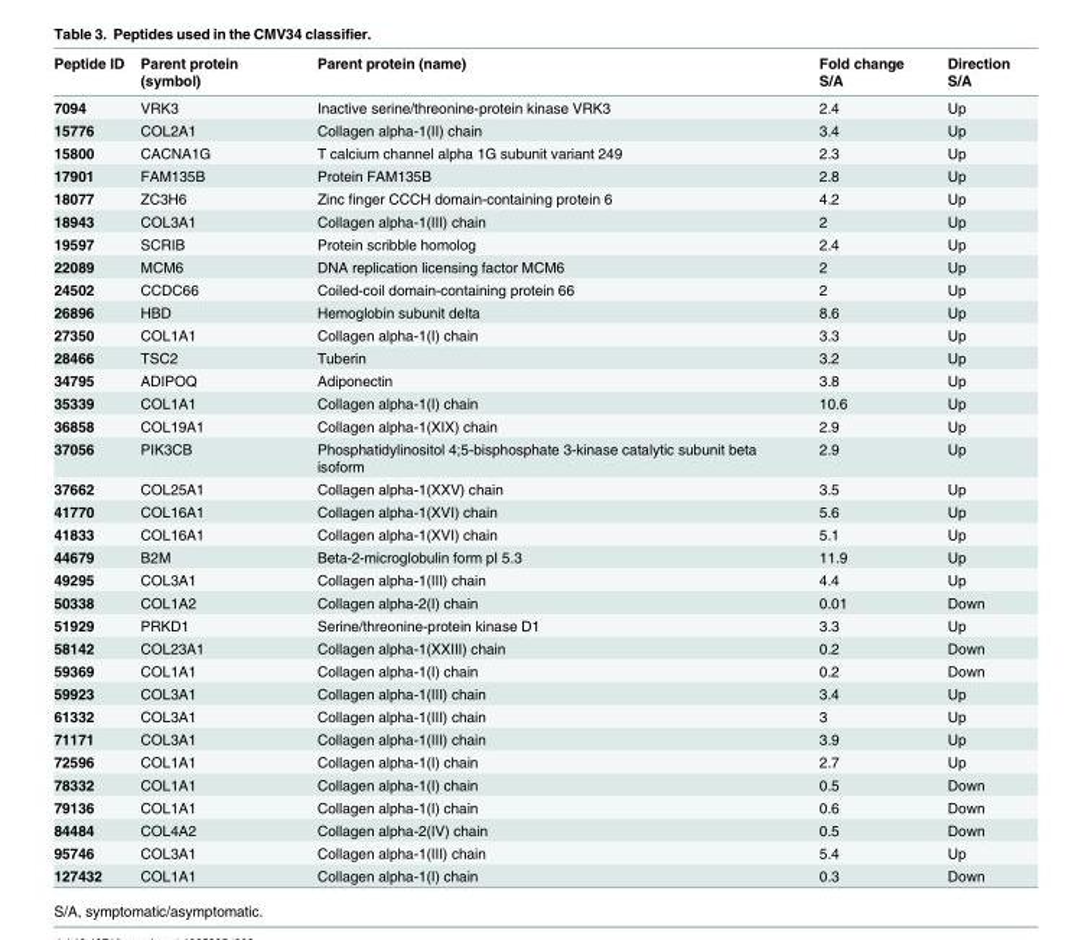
<table><thead><tr><td>Peptide ID</td><td>Parent protein (symbol)</td><td>Parent protein (name)</td><td>Fold change S/A</td><td>Direction S/A</td></tr></thead><tbody><tr><td>7094</td><td>VRK3</td><td>Inactive serine/threonine-protein kinase VRK3</td><td>2.4</td><td>Up</td></tr><tr><td>15776</td><td>COL2A1</td><td>Collagen alpha-1(II) chain</td><td>3.4</td><td>Up</td></tr><tr><td>15800</td><td>CACNA1G</td><td>T calcium channel alpha 1G subunit variant 249</td><td>2.3</td><td>Up</td></tr><tr><td>17901</td><td>FAM135B</td><td>Protein FAM135B</td><td>2.8</td><td>Up</td></tr><tr><td>18077</td><td>ZC3H6</td><td>Zinc finger CCCH domain-containing protein 6</td><td>4.2</td><td>Up</td></tr><tr><td>18943</td><td>COL3A1</td><td>Collagen alpha-1(III) chain</td><td>2</td><td>Up</td></tr><tr><td>19597</td><td>SCRIB</td><td>Protein scribble homolog</td><td>2.4</td><td>Up</td></tr><tr><td>22089</td><td>MCM6</td><td>DNA replication licensing factor MCM6</td><td>2</td><td>Up</td></tr><tr><td>24502</td><td>CCDC66</td><td>Coiled-coil domain-containing protein 66</td><td>2</td><td>Up</td></tr><tr><td>26896</td><td>HBD</td><td>Hemoglobin subunit delta</td><td>8.6</td><td>Up</td></tr><tr><td>27350</td><td>COL1A1</td><td>Collagen alpha-1(I) chain</td><td>3.3</td><td>Up</td></tr><tr><td>28466</td><td>TSC2</td><td>Tuberin</td><td>3.2</td><td>Up</td></tr><tr><td>34795</td><td>ADIPOQ</td><td>Adiponectin</td><td>3.8</td><td>Up</td></tr><tr><td>35339</td><td>COL1A1</td><td>Collagen alpha-1(I) chain</td><td>10.6</td><td>Up</td></tr><tr><td>36858</td><td>COL19A1</td><td>Collagen alpha-1(XIX) chain</td><td>2.9</td><td>Up</td></tr><tr><td>37056</td><td>PIK3CB</td><td>Phosphatidylinositol 4;5-bisphosphate 3-kinase catalytic subunit beta isoform</td><td>2.9</td><td>Up</td></tr><tr><td>37662</td><td>COL25A1</td><td>Collagen alpha-1(XXV) chain</td><td>3.5</td><td>Up</td></tr><tr><td>41770</td><td>COL16A1</td><td>Collagen alpha-1(XVI) chain</td><td>5.6</td><td>Up</td></tr><tr><td>41833</td><td>COL16A1</td><td>Collagen alpha-1(XVI) chain</td><td>5.1</td><td>Up</td></tr><tr><td>44679</td><td>B2M</td><td>Beta-2-microglobulin form pI 5.3</td><td>11.9</td><td>Up</td></tr><tr><td>49295</td><td>COL3A1</td><td>Collagen alpha-1(III) chain</td><td>4.4</td><td>Up</td></tr><tr><td>50338</td><td>COL1A2</td><td>Collagen alpha-2(I) chain</td><td>0.01</td><td>Down</td></tr><tr><td>51929</td><td>PRKD1</td><td>Serine/threonine-protein kinase D1</td><td>3.3</td><td>Up</td></tr><tr><td>58142</td><td>COL23A1</td><td>Collagen alpha-1(XXIII) chain</td><td>0.2</td><td>Down</td></tr><tr><td>59369</td><td>COL1A1</td><td>Collagen alpha-1(I) chain</td><td>0.2</td><td>Down</td></tr><tr><td>59923</td><td>COL3A1</td><td>Collagen alpha-1(III) chain</td><td>3.4</td><td>Up</td></tr><tr><td>61332</td><td>COL3A1</td><td>Collagen alpha-1(III) chain</td><td>3</td><td>Up</td></tr><tr><td>71171</td><td>COL3A1</td><td>Collagen alpha-1(III) chain</td><td>3.9</td><td>Up</td></tr><tr><td>72596</td><td>COL1A1</td><td>Collagen alpha-1(I) chain</td><td>2.7</td><td>Up</td></tr><tr><td>78332</td><td>COL1A1</td><td>Collagen alpha-1(I) chain</td><td>0.5</td><td>Down</td></tr><tr><td>79136</td><td>COL1A1</td><td>Collagen alpha-1(I) chain</td><td>0.6</td><td>Down</td></tr><tr><td>84484</td><td>COL4A2</td><td>Collagen alpha-2(IV) chain</td><td>0.5</td><td>Down</td></tr><tr><td>95746</td><td>COL3A1</td><td>Collagen alpha-1(III) chain</td><td>5.4</td><td>Up</td></tr><tr><td>127432</td><td>COL1A1</td><td>Collagen alpha-1(I) chain</td><td>0.3</td><td>Down</td></tr></tbody></table>